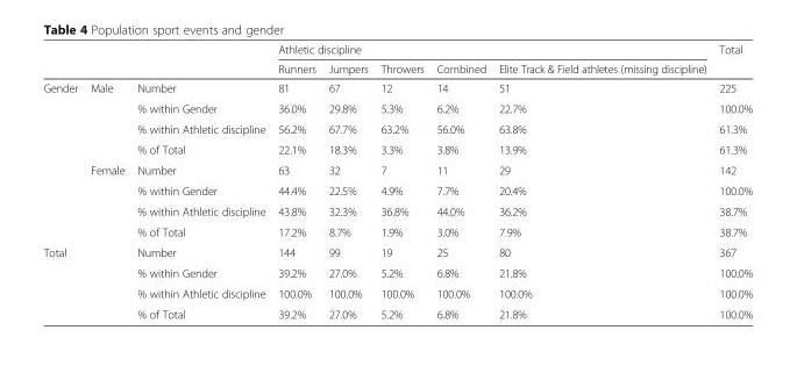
<table><thead><tr><td rowspan="2"></td><td rowspan="2"></td><td rowspan="2"></td><td colspan="5">Athletic discipline</td><td rowspan="2">Total</td></tr><tr><td>Runners</td><td>Jumpers</td><td>Throwers</td><td>Combined</td><td>Elite Track &amp; Field athletes (missing discipline)</td></tr></thead><tbody><tr><td rowspan="8">Gender</td><td>Male</td><td>Number</td><td>81</td><td>67</td><td>12</td><td>14</td><td>51</td><td>225</td></tr><tr><td></td><td>% within Gender</td><td>36.0%</td><td>29.8%</td><td>5.3%</td><td>6.2%</td><td>22.7%</td><td>100.0%</td></tr><tr><td></td><td>% within Athletic discipline</td><td>56.2%</td><td>67.7%</td><td>63.2%</td><td>56.0%</td><td>63.8%</td><td>61.3%</td></tr><tr><td></td><td>% of Total</td><td>22.1%</td><td>18.3%</td><td>3.3%</td><td>3.8%</td><td>13.9%</td><td>61.3%</td></tr><tr><td>Female</td><td>Number</td><td>63</td><td>32</td><td>7</td><td>11</td><td>29</td><td>142</td></tr><tr><td></td><td>% within Gender</td><td>44.4%</td><td>22.5%</td><td>4.9%</td><td>7.7%</td><td>20.4%</td><td>100.0%</td></tr><tr><td></td><td>% within Athletic discipline</td><td>43.8%</td><td>32.3%</td><td>36.8%</td><td>44.0%</td><td>36.2%</td><td>38.7%</td></tr><tr><td></td><td>% of Total</td><td>17.2%</td><td>8.7%</td><td>1.9%</td><td>3.0%</td><td>7.9%</td><td>38.7%</td></tr><tr><td rowspan="4" colspan="2">Total</td><td>Number</td><td>144</td><td>99</td><td>19</td><td>25</td><td>80</td><td>367</td></tr><tr><td>% within Gender</td><td>39.2%</td><td>27.0%</td><td>5.2%</td><td>6.8%</td><td>21.8%</td><td>100.0%</td></tr><tr><td>% within Athletic discipline</td><td>100.0%</td><td>100.0%</td><td>100.0%</td><td>100.0%</td><td>100.0%</td><td>100.0%</td></tr><tr><td>% of Total</td><td>39.2%</td><td>27.0%</td><td>5.2%</td><td>6.8%</td><td>21.8%</td><td>100.0%</td></tr></tbody></table>